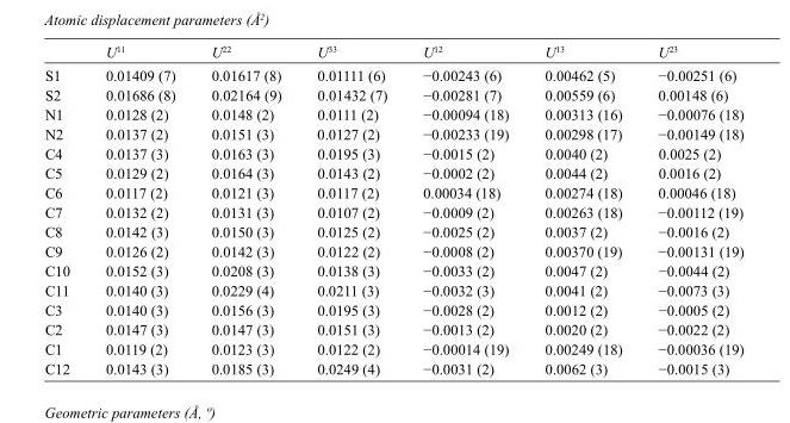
<table><thead><tr><td></td><td>U<sup>11</sup></td><td>U<sup>22</sup></td><td>U<sup>33</sup></td><td>U<sup>12</sup></td><td>U<sup>13</sup></td><td>U<sup>23</sup></td></tr></thead><tbody><tr><td>S1</td><td>0.01409 (7)</td><td>0.01617 (8)</td><td>0.01111 (6)</td><td>−0.00243 (6)</td><td>0.00462 (5)</td><td>−0.00251 (6)</td></tr><tr><td>S2</td><td>0.01686 (8)</td><td>0.02164 (9)</td><td>0.01432 (7)</td><td>−0.00281 (7)</td><td>0.00559 (6)</td><td>0.00148 (6)</td></tr><tr><td>N1</td><td>0.0128 (2)</td><td>0.0148 (2)</td><td>0.0111 (2)</td><td>−0.00094 (18)</td><td>0.00313 (16)</td><td>−0.00076 (18)</td></tr><tr><td>N2</td><td>0.0137 (2)</td><td>0.0151 (3)</td><td>0.0127 (2)</td><td>−0.00233 (19)</td><td>0.00298 (17)</td><td>−0.00149 (18)</td></tr><tr><td>C4</td><td>0.0137 (3)</td><td>0.0163 (3)</td><td>0.0195 (3)</td><td>−0.0015 (2)</td><td>0.0040 (2)</td><td>0.0025 (2)</td></tr><tr><td>C5</td><td>0.0129 (2)</td><td>0.0164 (3)</td><td>0.0143 (2)</td><td>−0.0002 (2)</td><td>0.0044 (2)</td><td>0.0016 (2)</td></tr><tr><td>C6</td><td>0.0117 (2)</td><td>0.0121 (3)</td><td>0.0117 (2)</td><td>0.00034 (18)</td><td>0.00274 (18)</td><td>0.00046 (18)</td></tr><tr><td>C7</td><td>0.0132 (2)</td><td>0.0131 (3)</td><td>0.0107 (2)</td><td>−0.0009 (2)</td><td>0.00263 (18)</td><td>−0.00112 (19)</td></tr><tr><td>C8</td><td>0.0142 (3)</td><td>0.0150 (3)</td><td>0.0125 (2)</td><td>−0.0025 (2)</td><td>0.0037 (2)</td><td>−0.0016 (2)</td></tr><tr><td>C9</td><td>0.0126 (2)</td><td>0.0142 (3)</td><td>0.0122 (2)</td><td>−0.0008 (2)</td><td>0.00370 (19)</td><td>−0.00131 (19)</td></tr><tr><td>C10</td><td>0.0152 (3)</td><td>0.0208 (3)</td><td>0.0138 (3)</td><td>−0.0033 (2)</td><td>0.0047 (2)</td><td>−0.0044 (2)</td></tr><tr><td>C11</td><td>0.0140 (3)</td><td>0.0229 (4)</td><td>0.0211 (3)</td><td>−0.0032 (3)</td><td>0.0041 (2)</td><td>−0.0073 (3)</td></tr><tr><td>C3</td><td>0.0140 (3)</td><td>0.0156 (3)</td><td>0.0195 (3)</td><td>−0.0028 (2)</td><td>0.0012 (2)</td><td>−0.0005 (2)</td></tr><tr><td>C2</td><td>0.0147 (3)</td><td>0.0147 (3)</td><td>0.0151 (3)</td><td>−0.0013 (2)</td><td>0.0020 (2)</td><td>−0.0022 (2)</td></tr><tr><td>C1</td><td>0.0119 (2)</td><td>0.0123 (3)</td><td>0.0122 (2)</td><td>−0.00014 (19)</td><td>0.00249 (18)</td><td>−0.00036 (19)</td></tr><tr><td>C12</td><td>0.0143 (3)</td><td>0.0185 (3)</td><td>0.0249 (4)</td><td>−0.0031 (2)</td><td>0.0062 (3)</td><td>−0.0015 (3)</td></tr></tbody></table>